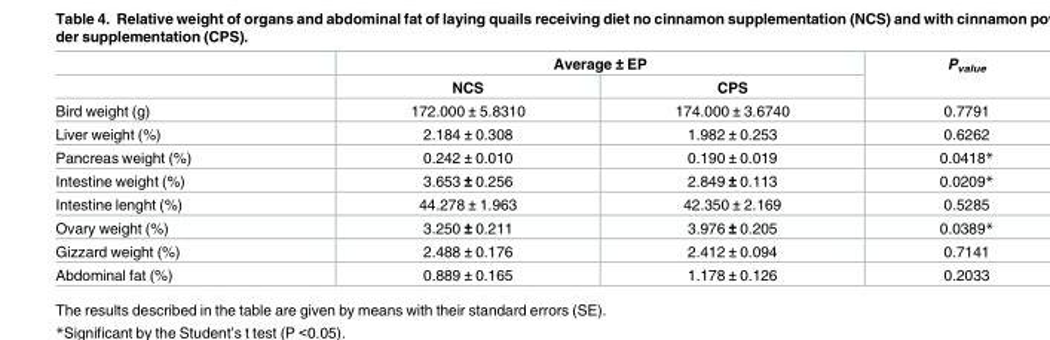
<table><thead><tr><td rowspan="2"></td><td colspan="2">Average ± EP</td><td rowspan="2">P<sub>value</sub></td></tr><tr><td>NCS</td><td>CPS</td></tr></thead><tbody><tr><td>Bird weight (g)</td><td>172.000 ± 5.8310</td><td>174.000 ± 3.6740</td><td>0.7791</td></tr><tr><td>Liver weight (%)</td><td>2.184 ± 0.308</td><td>1.982 ± 0.253</td><td>0.6262</td></tr><tr><td>Pancreas weight (%)</td><td>0.242 ± 0.010</td><td>0.190 ± 0.019</td><td>0.0418*</td></tr><tr><td>Intestine weight (%)</td><td>3.653 ± 0.256</td><td>2.849 ± 0.113</td><td>0.0209*</td></tr><tr><td>Intestine lenght (%)</td><td>44.278 ± 1.963</td><td>42.350 ± 2.169</td><td>0.5285</td></tr><tr><td>Ovary weight (%)</td><td>3.250 ± 0.211</td><td>3.976 ± 0.205</td><td>0.0389*</td></tr><tr><td>Gizzard weight (%)</td><td>2.488 ± 0.176</td><td>2.412 ± 0.094</td><td>0.7141</td></tr><tr><td>Abdominal fat (%)</td><td>0.889 ± 0.165</td><td>1.178 ± 0.126</td><td>0.2033</td></tr></tbody></table>